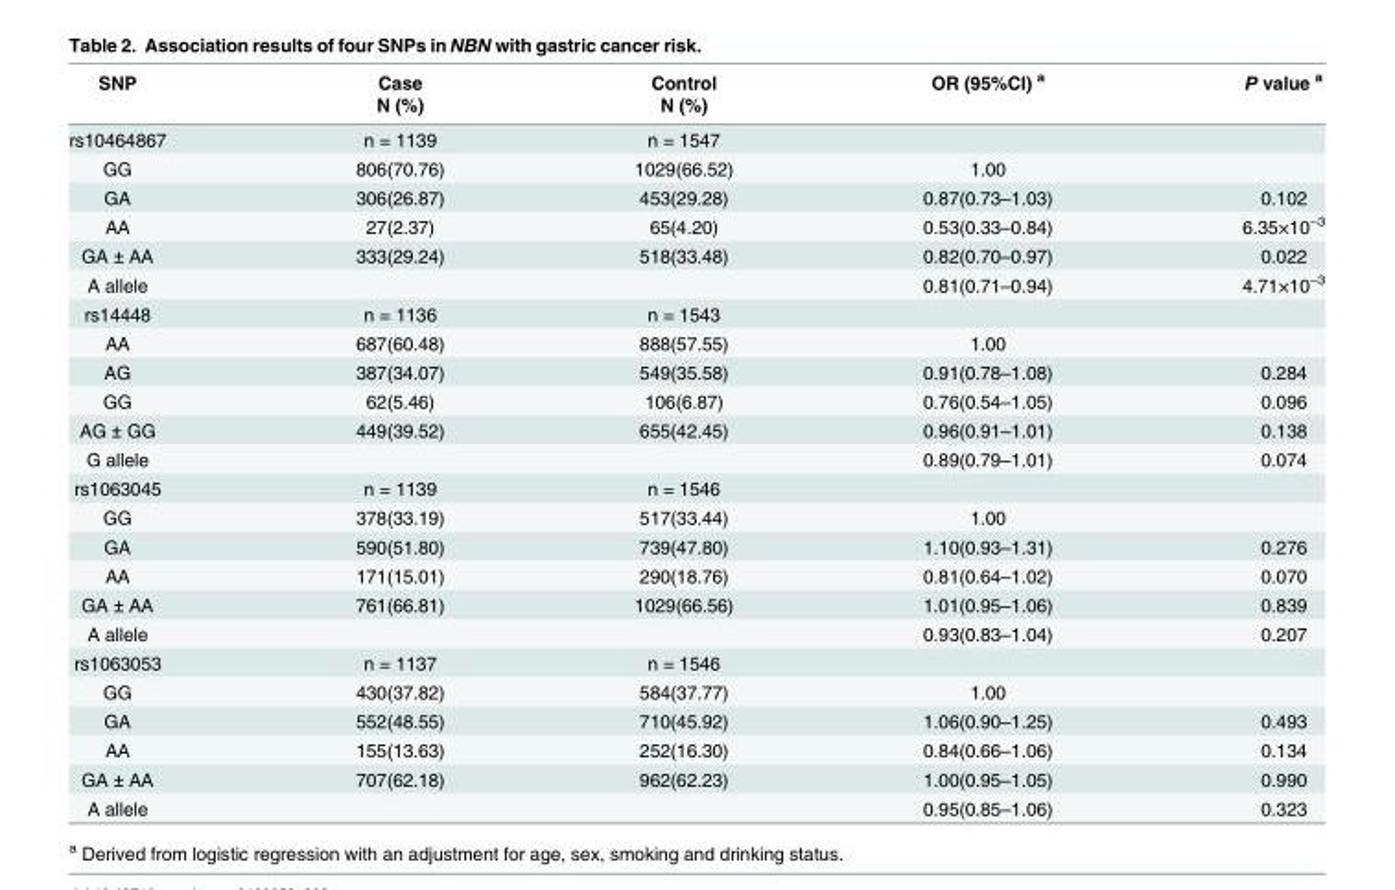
<table><thead><tr><td rowspan="2">SNP</td><td rowspan="2">Case N (%)</td><td rowspan="2">Control N (%)</td><td rowspan="2">OR (95%CI) <sup>a</sup></td><td rowspan="2">P value <sup>a</sup></td></tr><tr></tr></thead><tbody><tr><td>rs10464867</td><td>n = 1139</td><td>n = 1547</td><td></td><td></td></tr><tr><td>GG</td><td>806(70.76)</td><td>1029(66.52)</td><td>1.00</td><td></td></tr><tr><td>GA</td><td>306(26.87)</td><td>453(29.28)</td><td>0.87(0.73–1.03)</td><td>0.102</td></tr><tr><td>AA</td><td>27(2.37)</td><td>65(4.20)</td><td>0.53(0.33–0.84)</td><td>6.35×10<sup>−3</sup></td></tr><tr><td>GA ± AA</td><td>333(29.24)</td><td>518(33.48)</td><td>0.82(0.70–0.97)</td><td>0.022</td></tr><tr><td>A allele</td><td></td><td></td><td>0.81(0.71–0.94)</td><td>4.71×10<sup>−3</sup></td></tr><tr><td>rs14448</td><td>n = 1136</td><td>n = 1543</td><td></td><td></td></tr><tr><td>AA</td><td>687(60.48)</td><td>888(57.55)</td><td>1.00</td><td></td></tr><tr><td>AG</td><td>387(34.07)</td><td>549(35.58)</td><td>0.91(0.78–1.08)</td><td>0.284</td></tr><tr><td>GG</td><td>62(5.46)</td><td>106(6.87)</td><td>0.76(0.54–1.05)</td><td>0.096</td></tr><tr><td>AG ± GG</td><td>449(39.52)</td><td>655(42.45)</td><td>0.96(0.91–1.01)</td><td>0.138</td></tr><tr><td>G allele</td><td></td><td></td><td>0.89(0.79–1.01)</td><td>0.074</td></tr><tr><td>rs1063045</td><td>n = 1139</td><td>n = 1546</td><td></td><td></td></tr><tr><td>GG</td><td>378(33.19)</td><td>517(33.44)</td><td>1.00</td><td></td></tr><tr><td>GA</td><td>590(51.80)</td><td>739(47.80)</td><td>1.10(0.93–1.31)</td><td>0.276</td></tr><tr><td>AA</td><td>171(15.01)</td><td>290(18.76)</td><td>0.81(0.64–1.02)</td><td>0.070</td></tr><tr><td>GA ± AA</td><td>761(66.81)</td><td>1029(66.56)</td><td>1.01(0.95–1.06)</td><td>0.839</td></tr><tr><td>A allele</td><td></td><td></td><td>0.93(0.83–1.04)</td><td>0.207</td></tr><tr><td>rs1063053</td><td>n = 1137</td><td>n = 1546</td><td></td><td></td></tr><tr><td>GG</td><td>430(37.82)</td><td>584(37.77)</td><td>1.00</td><td></td></tr><tr><td>GA</td><td>552(48.55)</td><td>710(45.92)</td><td>1.06(0.90–1.25)</td><td>0.493</td></tr><tr><td>AA</td><td>155(13.63)</td><td>252(16.30)</td><td>0.84(0.66–1.06)</td><td>0.134</td></tr><tr><td>GA ± AA</td><td>707(62.18)</td><td>962(62.23)</td><td>1.00(0.95–1.05)</td><td>0.990</td></tr><tr><td>A allele</td><td></td><td></td><td>0.95(0.85–1.06)</td><td>0.323</td></tr></tbody></table>